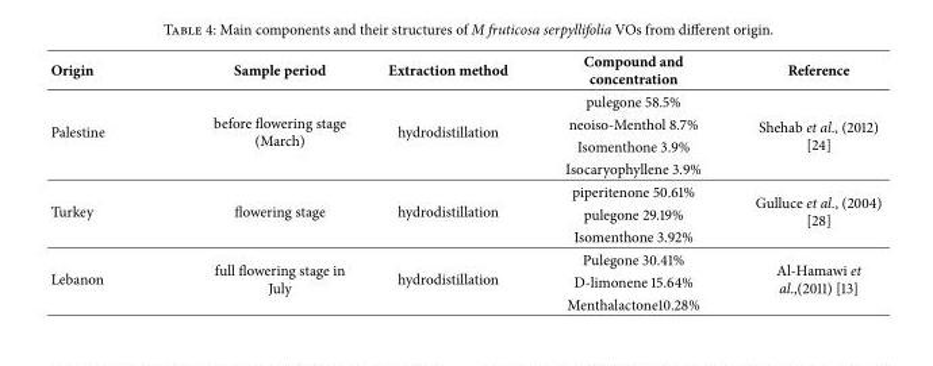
<table><thead><tr><td>Origin</td><td>Sample period</td><td>Extraction method</td><td>Compound and concentration</td><td>Reference</td></tr></thead><tbody><tr><td rowspan="4">Palestine</td><td rowspan="4">before flowering stage (March)</td><td rowspan="4">hydrodistillation</td><td>pulegone 58.5%</td><td rowspan="4">Shehab et al., (2012) [24]</td></tr><tr><td>neoiso-Menthol 8.7%</td></tr><tr><td>Isomenthone 3.9%</td></tr><tr><td>Isocaryophyllene 3.9%</td></tr><tr><td rowspan="3">Turkey</td><td rowspan="3">flowering stage</td><td rowspan="3">hydrodistillation</td><td>piperitenone 50.61%</td><td rowspan="3">Gulluce et al., (2004) [28]</td></tr><tr><td>pulegone 29.19%</td></tr><tr><td>Isomenthone 3.92%</td></tr><tr><td rowspan="3">Lebanon</td><td rowspan="3">full flowering stage in July</td><td rowspan="3">hydrodistillation</td><td>Pulegone 30.41%</td><td rowspan="3">Al-Hamawi et al.,(2011) [13]</td></tr><tr><td>D-limonene 15.64%</td></tr><tr><td>Menthalactone10.28%</td></tr></tbody></table>